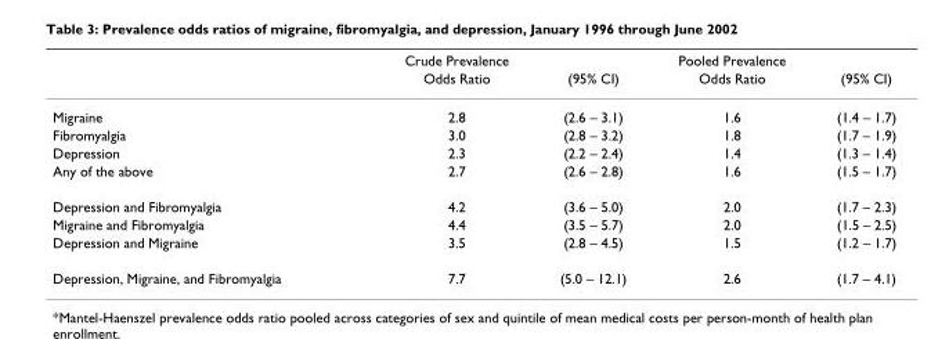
<table><thead><tr><td rowspan="2"></td><td rowspan="2">Crude Prevalence Odds Ratio</td><td rowspan="2">(95% CI)</td><td rowspan="2">Pooled Prevalence Odds Ratio</td><td rowspan="2">(95% CI)</td></tr><tr></tr></thead><tbody><tr><td>Migraine</td><td>2.8</td><td>(2.6 – 3.1)</td><td>1.6</td><td>(1.4 – 1.7)</td></tr><tr><td>Fibromyalgia</td><td>3.0</td><td>(2.8 – 3.2)</td><td>1.8</td><td>(1.7 – 1.9)</td></tr><tr><td>Depression</td><td>2.3</td><td>(2.2 – 2.4)</td><td>1.4</td><td>(1.3 – 1.4)</td></tr><tr><td>Any of the above</td><td>2.7</td><td>(2.6 – 2.8)</td><td>1.6</td><td>(1.5 – 1.7)</td></tr><tr><td>Depression and Fibromyalgia</td><td>4.2</td><td>(3.6 – 5.0)</td><td>2.0</td><td>(1.7 – 2.3)</td></tr><tr><td>Migraine and Fibromyalgia</td><td>4.4</td><td>(3.5 – 5.7)</td><td>2.0</td><td>(1.5 – 2.5)</td></tr><tr><td>Depression and Migraine</td><td>3.5</td><td>(2.8 – 4.5)</td><td>1.5</td><td>(1.2 – 1.7)</td></tr><tr><td>Depression, Migraine, and Fibromyalgia</td><td>7.7</td><td>(5.0 – 12.1)</td><td>2.6</td><td>(1.7 – 4.1)</td></tr></tbody></table>